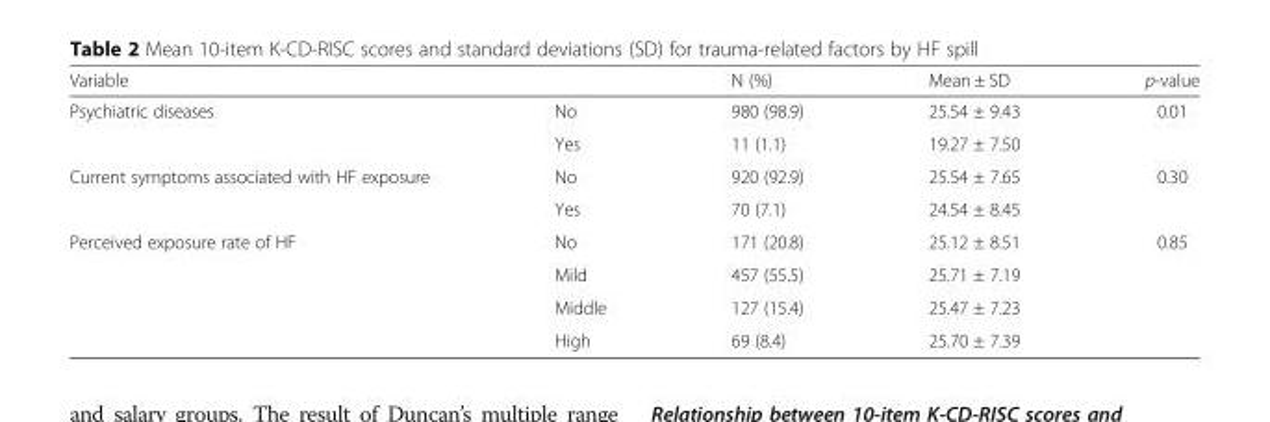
<table><thead><tr><td>Variable</td><td></td><td>N (%)</td><td>Mean ± SD</td><td>p-value</td></tr></thead><tbody><tr><td rowspan="2">Psychiatric diseases</td><td>No</td><td>980 (98.9)</td><td>25.54 ± 9.43</td><td>0.01</td></tr><tr><td>Yes</td><td>11 (1.1)</td><td>19.27 ± 7.50</td><td></td></tr><tr><td rowspan="2">Current symptoms associated with HF exposure</td><td>No</td><td>920 (92.9)</td><td>25.54 ± 7.65</td><td>0.30</td></tr><tr><td>Yes</td><td>70 (7.1)</td><td>24.54 ± 8.45</td><td></td></tr><tr><td rowspan="4">Perceived exposure rate of HF</td><td>No</td><td>171 (20.8)</td><td>25.12 ± 8.51</td><td>0.85</td></tr><tr><td>Mild</td><td>457 (55.5)</td><td>25.71 ± 7.19</td><td></td></tr><tr><td>Middle</td><td>127 (15.4)</td><td>25.47 ± 7.23</td><td></td></tr><tr><td>High</td><td>69 (8.4)</td><td>25.70 ± 7.39</td><td></td></tr></tbody></table>